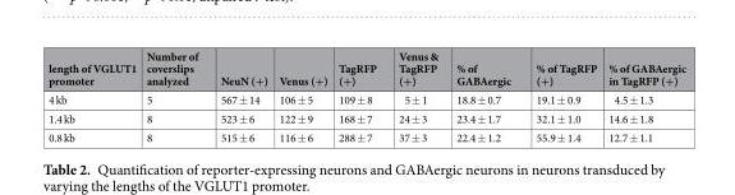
<table><thead><tr><td>length of VGLUT1 promoter</td><td>Number of coverslips analyzed</td><td>NeuN (+)</td><td>Venus (+)</td><td>TagRFP (+)</td><td>Venus &amp; TagRFP (+)</td><td>% of GABAergic</td><td>% of TagRFP (+)</td><td>% of GABAergic in TagRFP (+)</td></tr></thead><tbody><tr><td>4 kb</td><td>5</td><td>567 ± 14</td><td>106 ± 5</td><td>109 ± 8</td><td>5 ± 1</td><td>18.8 ± 0.7</td><td>19.1 ± 0.9</td><td>4.5 ± 1.3</td></tr><tr><td>1.4 kb</td><td>8</td><td>523 ± 6</td><td>122 ± 9</td><td>168 ± 7</td><td>24 ± 3</td><td>23.4 ± 1.7</td><td>32.1 ± 1.0</td><td>14.6 ± 1.8</td></tr><tr><td>0.8 kb</td><td>8</td><td>515 ± 6</td><td>116 ± 6</td><td>288 ± 7</td><td>37 ± 3</td><td>22.4 ± 1.2</td><td>55.9 ± 1.4</td><td>12.7 ± 1.1</td></tr></tbody></table>